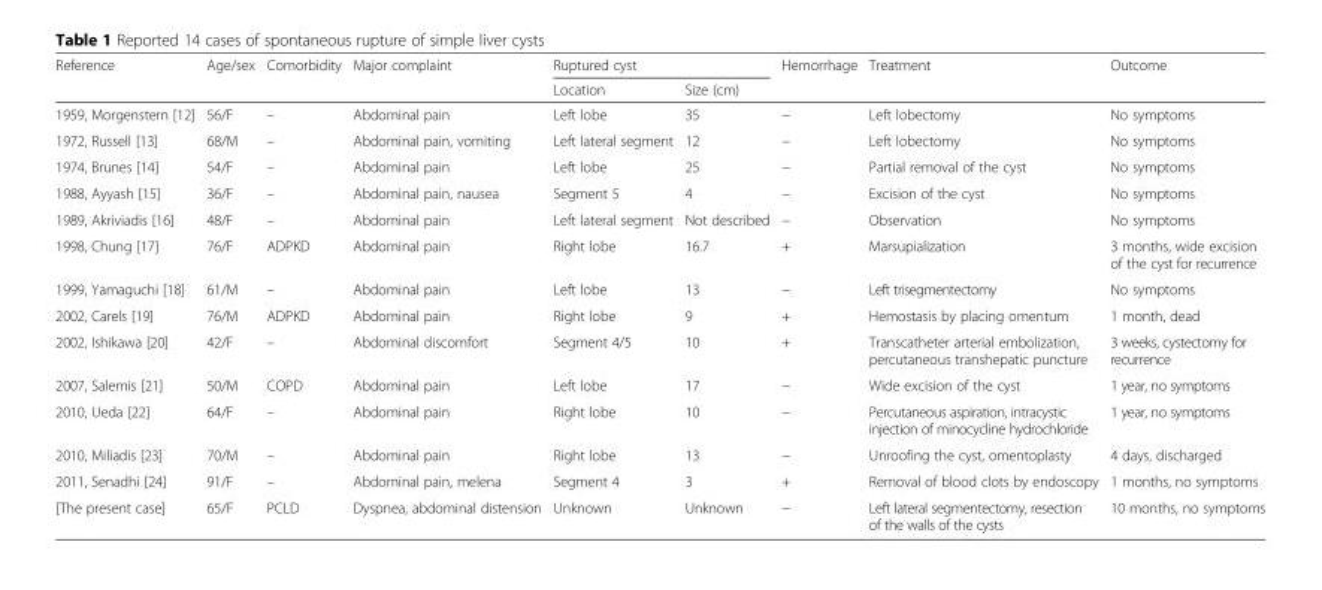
<table><thead><tr><td rowspan="2">Reference</td><td rowspan="2">Age/sex</td><td rowspan="2">Comorbidity</td><td rowspan="2">Major complaint</td><td colspan="2">Ruptured cyst</td><td rowspan="2">Hemorrhage</td><td rowspan="2">Treatment</td><td rowspan="2">Outcome</td></tr><tr><td>Location</td><td>Size (cm)</td></tr></thead><tbody><tr><td>1959, Morgenstern [12]</td><td>56/F</td><td>–</td><td>Abdominal pain</td><td>Left lobe</td><td>35</td><td>−</td><td>Left lobectomy</td><td>No symptoms</td></tr><tr><td>1972, Russell [13]</td><td>68/M</td><td>–</td><td>Abdominal pain, vomiting</td><td>Left lateral segment</td><td>12</td><td>−</td><td>Left lobectomy</td><td>No symptoms</td></tr><tr><td>1974, Brunes [14]</td><td>54/F</td><td>–</td><td>Abdominal pain</td><td>Left lobe</td><td>25</td><td>−</td><td>Partial removal of the cyst</td><td>No symptoms</td></tr><tr><td>1988, Ayyash [15]</td><td>36/F</td><td>–</td><td>Abdominal pain, nausea</td><td>Segment 5</td><td>4</td><td>−</td><td>Excision of the cyst</td><td>No symptoms</td></tr><tr><td>1989, Akriviadis [16]</td><td>48/F</td><td>–</td><td>Abdominal pain</td><td>Left lateral segment</td><td>Not described</td><td>−</td><td>Observation</td><td>No symptoms</td></tr><tr><td>1998, Chung [17]</td><td>76/F</td><td>ADPKD</td><td>Abdominal pain</td><td>Right lobe</td><td>16.7</td><td>+</td><td>Marsupialization</td><td>3 months, wide excision of the cyst for recurrence</td></tr><tr><td>1999, Yamaguchi [18]</td><td>61/M</td><td>–</td><td>Abdominal pain</td><td>Left lobe</td><td>13</td><td>−</td><td>Left trisegmentectomy</td><td>No symptoms</td></tr><tr><td>2002, Carels [19]</td><td>76/M</td><td>ADPKD</td><td>Abdominal pain</td><td>Right lobe</td><td>9</td><td>+</td><td>Hemostasis by placing omentum</td><td>1 month, dead</td></tr><tr><td>2002, Ishikawa [20]</td><td>42/F</td><td>–</td><td>Abdominal discomfort</td><td>Segment 4/5</td><td>10</td><td>+</td><td>Transcatheter arterial embolization, percutaneous transhepatic puncture</td><td>3 weeks, cystectomy for recurrence</td></tr><tr><td>2007, Salemis [21]</td><td>50/M</td><td>COPD</td><td>Abdominal pain</td><td>Left lobe</td><td>17</td><td>−</td><td>Wide excision of the cyst</td><td>1 year, no symptoms</td></tr><tr><td>2010, Ueda [22]</td><td>64/F</td><td>–</td><td>Abdominal pain</td><td>Right lobe</td><td>10</td><td>−</td><td>Percutaneous aspiration, intracystic injection of minocycline hydrochloride</td><td>1 year, no symptoms</td></tr><tr><td>2010, Miliadis [23]</td><td>70/M</td><td>–</td><td>Abdominal pain</td><td>Right lobe</td><td>13</td><td>−</td><td>Unroofing the cyst, omentoplasty</td><td>4 days, discharged</td></tr><tr><td>2011, Senadhi [24]</td><td>91/F</td><td>–</td><td>Abdominal pain, melena</td><td>Segment 4</td><td>3</td><td>+</td><td>Removal of blood clots by endoscopy</td><td>1 months, no symptoms</td></tr><tr><td>[The present case]</td><td>65/F</td><td>PCLD</td><td>Dyspnea, abdominal distension</td><td>Unknown</td><td>Unknown</td><td>−</td><td>Left lateral segmentectomy, resection of the walls of the cysts</td><td>10 months, no symptoms</td></tr></tbody></table>